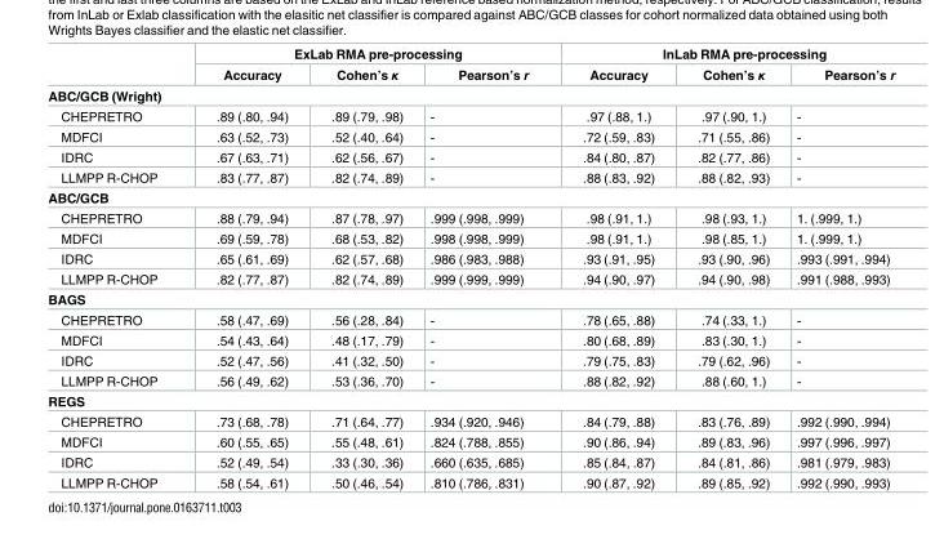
<table><thead><tr><td rowspan="2"></td><td colspan="3">ExLab RMA pre-processing</td><td colspan="3">InLab RMA pre-processing</td></tr><tr><td>Accuracy</td><td>Cohen’s κ</td><td>Pearson’s r</td><td>Accuracy</td><td>Cohen’s κ</td><td>Pearson’s r</td></tr></thead><tbody><tr><td colspan="7">ABC/GCB (Wright)</td></tr><tr><td>CHEPRETRO</td><td>.89 (.80, .94)</td><td>.89 (.79, .98)</td><td>-</td><td>.97 (.88, 1.)</td><td>.97 (.90, 1.)</td><td>-</td></tr><tr><td>MDFCI</td><td>.63 (.52, .73)</td><td>.52 (.40, .64)</td><td>-</td><td>.72 (.59, .83)</td><td>.71 (.55, .86)</td><td>-</td></tr><tr><td>IDRC</td><td>.67 (.63, .71)</td><td>.62 (.56, .67)</td><td>-</td><td>.84 (.80, .87)</td><td>.82 (.77, .86)</td><td>-</td></tr><tr><td>LLMPP R-CHOP</td><td>.83 (.77, .87)</td><td>.82 (.74, .89)</td><td>-</td><td>.88 (.83, .92)</td><td>.88 (.82, .93)</td><td>-</td></tr><tr><td colspan="7">ABC/GCB</td></tr><tr><td>CHEPRETRO</td><td>.88 (.79, .94)</td><td>.87 (.78, .97)</td><td>.999 (.998, .999)</td><td>.98 (.91, 1.)</td><td>.98 (.93, 1.)</td><td>1. (.999, 1.)</td></tr><tr><td>MDFCI</td><td>.69 (.59, .78)</td><td>.68 (.53, .82)</td><td>.998 (.998, .999)</td><td>.98 (.91, 1.)</td><td>.98 (.85, 1.)</td><td>1. (.999, 1.)</td></tr><tr><td>IDRC</td><td>.65 (.61, .69)</td><td>.62 (.57, .68)</td><td>.986 (.983, .988)</td><td>.93 (.91, .95)</td><td>.93 (.90, .96)</td><td>.993 (.991, .994)</td></tr><tr><td>LLMPP R-CHOP</td><td>.82 (.77, .87)</td><td>.82 (.74, .89)</td><td>.999 (.999, .999)</td><td>.94 (.90, .97)</td><td>.94 (.90, .98)</td><td>.991 (.988, .993)</td></tr><tr><td colspan="7">BAGS</td></tr><tr><td>CHEPRETRO</td><td>.58 (.47, .69)</td><td>.56 (.28, .84)</td><td>-</td><td>.78 (.65, .88)</td><td>.74 (.33, 1.)</td><td>-</td></tr><tr><td>MDFCI</td><td>.54 (.43, .64)</td><td>.48 (.17, .79)</td><td>-</td><td>.80 (.68, .89)</td><td>.83 (.30, 1.)</td><td>-</td></tr><tr><td>IDRC</td><td>.52 (.47, .56)</td><td>.41 (.32, .50)</td><td>-</td><td>.79 (.75, .83)</td><td>.79 (.62, .96)</td><td>-</td></tr><tr><td>LLMPP R-CHOP</td><td>.56 (.49, .62)</td><td>.53 (.36, .70)</td><td>-</td><td>.88 (.82, .92)</td><td>.88 (.60, 1.)</td><td>-</td></tr><tr><td colspan="7">REGS</td></tr><tr><td>CHEPRETRO</td><td>.73 (.68, .78)</td><td>.71 (.64, .77)</td><td>.934 (.920, .946)</td><td>.84 (.79, .88)</td><td>.83 (.76, .89)</td><td>.992 (.990, .994)</td></tr><tr><td>MDFCI</td><td>.60 (.55, .65)</td><td>.55 (.48, .61)</td><td>.824 (.788, .855)</td><td>.90 (.86, .94)</td><td>.89 (.83, .96)</td><td>.997 (.996, .997)</td></tr><tr><td>IDRC</td><td>.52 (.49, .54)</td><td>.33 (.30, .36)</td><td>.660 (.635, .685)</td><td>.85 (.84, .87)</td><td>.84 (.81, .86)</td><td>.981 (.979, .983)</td></tr><tr><td>LLMPP R-CHOP</td><td>.58 (.54, .61)</td><td>.50 (.46, .54)</td><td>.810 (.786, .831)</td><td>.90 (.87, .92)</td><td>.89 (.85, .92)</td><td>.992 (.990, .993)</td></tr></tbody></table>